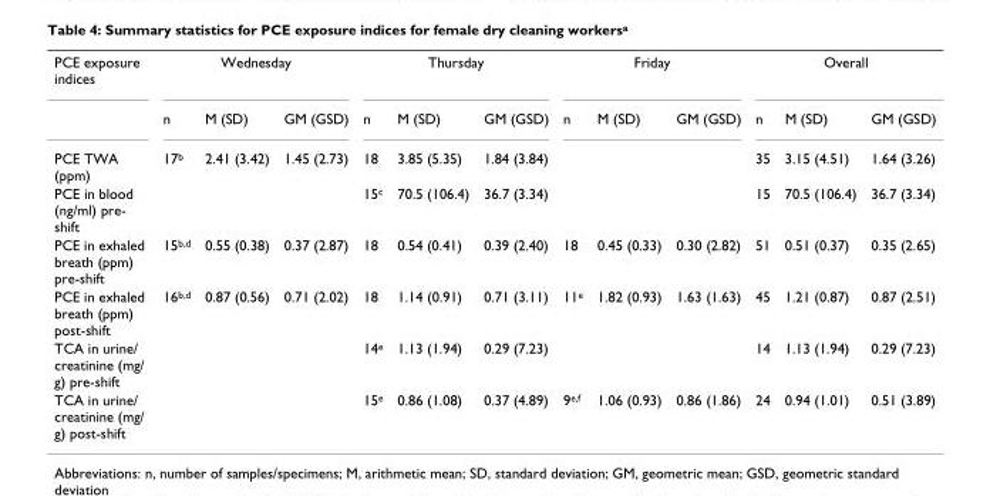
<table><tbody><tr><td rowspan="2">PCE exposure indices</td><td colspan="3">Wednesday</td><td colspan="3">Thursday</td><td colspan="3">Friday</td><td colspan="3">Overall</td></tr><tr><td>n</td><td>M (SD)</td><td>GM (GSD)</td><td>n</td><td>M (SD)</td><td>GM (GSD)</td><td>n</td><td>M (SD)</td><td>GM (GSD)</td><td>n</td><td>M (SD)</td><td>GM (GSD)</td></tr><tr><td>PCE TWA (ppm)</td><td>17<sup>b</sup></td><td>2.41 (3.42)</td><td>1.45 (2.73)</td><td>18</td><td>3.85 (5.35)</td><td>1.84 (3.84)</td><td></td><td></td><td></td><td>35</td><td>3.15 (4.51)</td><td>1.64 (3.26)</td></tr><tr><td>PCE in blood (ng/ml) pre- shift</td><td></td><td></td><td></td><td>15<sup>c</sup></td><td>70.5 (106.4)</td><td>36.7 (3.34)</td><td></td><td></td><td></td><td>15</td><td>70.5 (106.4)</td><td>36.7 (3.34)</td></tr><tr><td>PCE in exhaled breath (ppm) pre-shift</td><td>15<sup>b,d</sup></td><td>0.55 (0.38)</td><td>0.37 (2.87)</td><td>18</td><td>0.54 (0.41)</td><td>0.39 (2.40)</td><td>18</td><td>0.45 (0.33)</td><td>0.30 (2.82)</td><td>51</td><td>0.51 (0.37)</td><td>0.35 (2.65)</td></tr><tr><td>PCE in exhaled breath (ppm) post-shift</td><td>16<sup>b,d</sup></td><td>0.87 (0.56)</td><td>0.71 (2.02)</td><td>18</td><td>1.14 (0.91)</td><td>0.71 (3.11)</td><td>11<sup>e</sup></td><td>1.82 (0.93)</td><td>1.63 (1.63)</td><td>45</td><td>1.21 (0.87)</td><td>0.87 (2.51)</td></tr><tr><td>TCA in urine/ creatinine (mg/ g) pre-shift</td><td></td><td></td><td></td><td>14<sup>e</sup></td><td>1.13 (1.94)</td><td>0.29 (7.23)</td><td></td><td></td><td></td><td>14</td><td>1.13 (1.94)</td><td>0.29 (7.23)</td></tr><tr><td>TCA in urine/ creatinine (mg/ g) post-shift</td><td></td><td></td><td></td><td>15<sup>e</sup></td><td>0.86 (1.08)</td><td>0.37 (4.89)</td><td>9<sup>e,f</sup></td><td>1.06 (0.93)</td><td>0.86 (1.86)</td><td>24</td><td>0.94 (1.01)</td><td>0.51 (3.89)</td></tr></tbody></table>